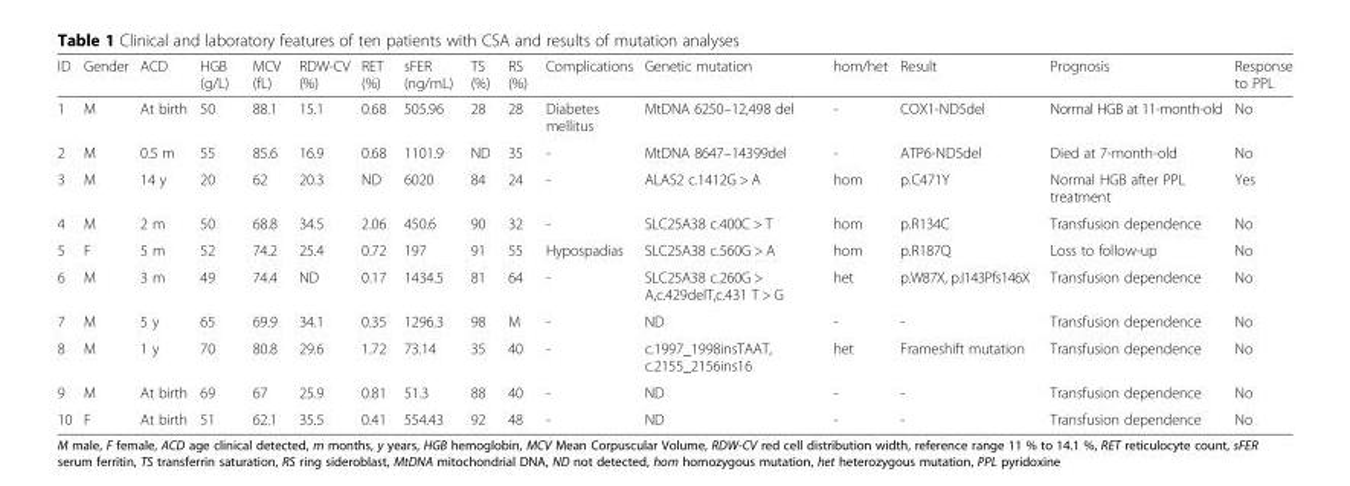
<table><thead><tr><td>ID</td><td>Gender</td><td>ACD</td><td>HGB (g/L)</td><td>MCV (fL)</td><td>RDW-CV (%)</td><td>RET (%)</td><td>sFER (ng/mL)</td><td>TS (%)</td><td>RS (%)</td><td>Complications</td><td>Genetic mutation</td><td>hom/het</td><td>Result</td><td>Prognosis</td><td>Response to PPL</td></tr></thead><tbody><tr><td>1</td><td>M</td><td>At birth</td><td>50</td><td>88.1</td><td>15.1</td><td>0.68</td><td>505.96</td><td>28</td><td>28</td><td>Diabetes mellitus</td><td>MtDNA 6250–12,498 del</td><td>-</td><td>COX1-ND5del</td><td>Normal HGB at 11-month-old</td><td>No</td></tr><tr><td>2</td><td>M</td><td>0.5 m</td><td>55</td><td>85.6</td><td>16.9</td><td>0.68</td><td>1101.9</td><td>ND</td><td>35</td><td>-</td><td>MtDNA 8647–14399del</td><td>-</td><td>ATP6-ND5del</td><td>Died at 7-month-old</td><td>No</td></tr><tr><td>3</td><td>M</td><td>14 y</td><td>20</td><td>62</td><td>20.3</td><td>ND</td><td>6020</td><td>84</td><td>24</td><td>-</td><td>ALAS2 c.1412G &gt; A</td><td>hom</td><td>p.C471Y</td><td>Normal HGB after PPL treatment</td><td>Yes</td></tr><tr><td>4</td><td>M</td><td>2 m</td><td>50</td><td>68.8</td><td>34.5</td><td>2.06</td><td>450.6</td><td>90</td><td>32</td><td>-</td><td>SLC25A38 c.400C &gt; T</td><td>hom</td><td>p.R134C</td><td>Transfusion dependence</td><td>No</td></tr><tr><td>5</td><td>F</td><td>5 m</td><td>52</td><td>74.2</td><td>25.4</td><td>0.72</td><td>197</td><td>91</td><td>55</td><td>Hypospadias</td><td>SLC25A38 c.560G &gt; A</td><td>hom</td><td>p.R187Q</td><td>Loss to follow-up</td><td>No</td></tr><tr><td>6</td><td>M</td><td>3 m</td><td>49</td><td>74.4</td><td>ND</td><td>0.17</td><td>1434.5</td><td>81</td><td>64</td><td>-</td><td>SLC25A38 c.260G &gt; A,c.429delT,c.431 T &gt; G</td><td>het</td><td>p.W87X, p.I143Pfs146X</td><td>Transfusion dependence</td><td>No</td></tr><tr><td>7</td><td>M</td><td>5 y</td><td>65</td><td>69.9</td><td>34.1</td><td>0.35</td><td>1296.3</td><td>98</td><td>M</td><td>-</td><td>ND</td><td>-</td><td>-</td><td>Transfusion dependence</td><td>No</td></tr><tr><td>8</td><td>M</td><td>1 y</td><td>70</td><td>80.8</td><td>29.6</td><td>1.72</td><td>73.14</td><td>35</td><td>40</td><td>-</td><td>c.1997_1998insTAAT, c.2155_2156ins16</td><td>het</td><td>Frameshift mutation</td><td>Transfusion dependence</td><td>No</td></tr><tr><td>9</td><td>M</td><td>At birth</td><td>69</td><td>67</td><td>25.9</td><td>0.81</td><td>51.3</td><td>88</td><td>40</td><td>-</td><td>ND</td><td>-</td><td>-</td><td>Transfusion dependence</td><td>No</td></tr><tr><td>10</td><td>F</td><td>At birth</td><td>51</td><td>62.1</td><td>35.5</td><td>0.41</td><td>554.43</td><td>92</td><td>48</td><td>-</td><td>ND</td><td>-</td><td>-</td><td>Transfusion dependence</td><td>No</td></tr></tbody></table>